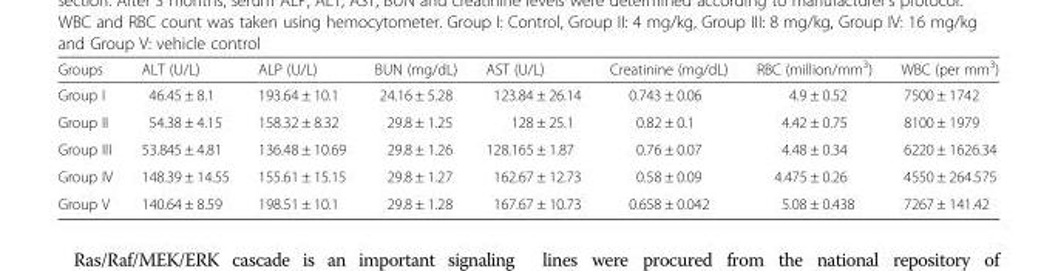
<table><thead><tr><td>Groups</td><td>ALT (U/L)</td><td>ALP (U/L)</td><td>BUN (mg/dL)</td><td>AST (U/L)</td><td>Creatinine (mg/dL)</td><td>RBC (million/mm<sup>3</sup>)</td><td>WBC (per mm<sup>3</sup>)</td></tr></thead><tbody><tr><td>Group I</td><td>46.45 ± 8.1</td><td>193.64 ± 10.1</td><td>24.16 ± 5.28</td><td>123.84 ± 26.14</td><td>0.743 ± 0.06</td><td>4.9 ± 0.52</td><td>7500 ± 1742</td></tr><tr><td>Group II</td><td>54.38 ± 4.15</td><td>158.32 ± 8.32</td><td>29.8 ± 1.25</td><td>128 ± 25.1</td><td>0.82 ± 0.1</td><td>4.42 ± 0.75</td><td>8100 ± 1979</td></tr><tr><td>Group III</td><td>53.845 ± 4.81</td><td>136.48 ± 10.69</td><td>29.8 ± 1.26</td><td>128.165 ± 1.87</td><td>0.76 ± 0.07</td><td>4.48 ± 0.34</td><td>6220 ± 1626.34</td></tr><tr><td>Group IV</td><td>148.39 ± 14.55</td><td>155.61 ± 15.15</td><td>29.8 ± 1.27</td><td>162.67 ± 12.73</td><td>0.58 ± 0.09</td><td>4.475 ± 0.26</td><td>4550 ± 264.575</td></tr><tr><td>Group V</td><td>140.64 ± 8.59</td><td>198.51 ± 10.1</td><td>29.8 ± 1.28</td><td>167.67 ± 10.73</td><td>0.658 ± 0.042</td><td>5.08 ± 0.438</td><td>7267 ± 141.42</td></tr></tbody></table>